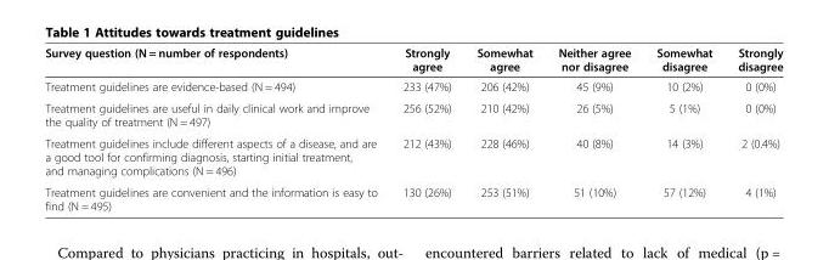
<table><thead><tr><td>Survey question (N = number of respondents)</td><td>Strongly agree</td><td>Somewhat agree</td><td>Neither agree nor disagree</td><td>Somewhat disagree</td><td>Strongly disagree</td></tr></thead><tbody><tr><td>Treatment guidelines are evidence-based (N = 494)</td><td>233 (47%)</td><td>206 (42%)</td><td>45 (9%)</td><td>10 (2%)</td><td>0 (0%)</td></tr><tr><td>Treatment guidelines are useful in daily clinical work and improve the quality of treatment (N = 497)</td><td>256 (52%)</td><td>210 (42%)</td><td>26 (5%)</td><td>5 (1%)</td><td>0 (0%)</td></tr><tr><td>Treatment guidelines include different aspects of a disease, and are a good tool for confirming diagnosis, starting initial treatment, and managing complications (N = 496)</td><td>212 (43%)</td><td>228 (46%)</td><td>40 (8%)</td><td>14 (3%)</td><td>2 (0.4%)</td></tr><tr><td>Treatment guidelines are convenient and the information is easy to find (N = 495)</td><td>130 (26%)</td><td>253 (51%)</td><td>51 (10%)</td><td>57 (12%)</td><td>4 (1%)</td></tr></tbody></table>